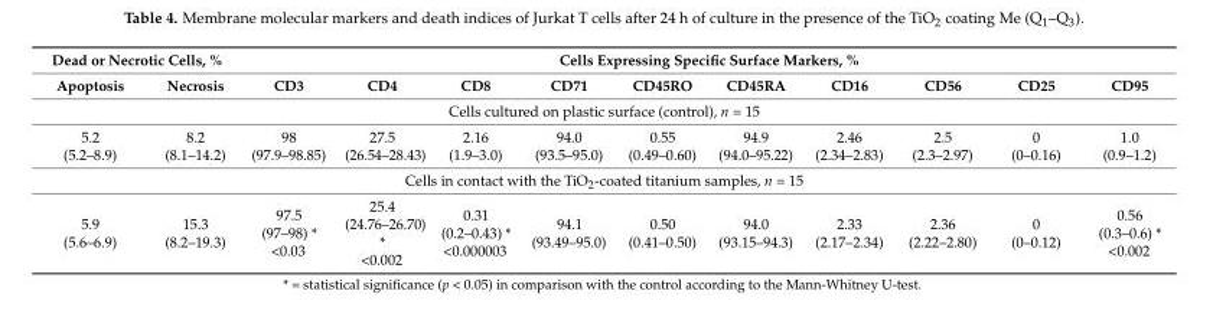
<table><thead><tr><td colspan="2">Dead or Necrotic Cells, %</td><td colspan="10">Cells Expressing Specific Surface Markers, %</td></tr><tr><td>Apoptosis</td><td>Necrosis</td><td>CD3</td><td>CD4</td><td>CD8</td><td>CD71</td><td>CD45RO</td><td>CD45RA</td><td>CD16</td><td>CD56</td><td>CD25</td><td>CD95</td></tr></thead><tbody><tr><td colspan="12">Cells cultured on plastic surface (control), n = 15</td></tr><tr><td>5.2 (5.2–8.9)</td><td>8.2 (8.1–14.2)</td><td>98 (97.9–98.85)</td><td>27.5 (26.54–28.43)</td><td>2.16 (1.9–3.0)</td><td>94.0 (93.5–95.0)</td><td>0.55 (0.49–0.60)</td><td>94.9 (94.0–95.22)</td><td>2.46 (2.34–2.83)</td><td>2.5 (2.3–2.97)</td><td>0 (0–0.16)</td><td>1.0 (0.9–1.2)</td></tr><tr><td colspan="12">Cells in contact with the TiO<sub>2</sub>-coated titanium samples, n = 15</td></tr><tr><td>5.9 (5.6–6.9)</td><td>15.3 (8.2–19.3)</td><td>97.5 (97–98) * &lt;0.03</td><td>25.4 (24.76–26.70) * &lt;0.002</td><td>0.31 (0.2–0.43) * &lt;0.000003</td><td>94.1 (93.49–95.0)</td><td>0.50 (0.41–0.50)</td><td>94.0 (93.15–94.3)</td><td>2.33 (2.17–2.34)</td><td>2.36 (2.22–2.80)</td><td>0 (0–0.12)</td><td>0.56 (0.3–0.6) * &lt;0.002</td></tr></tbody></table>